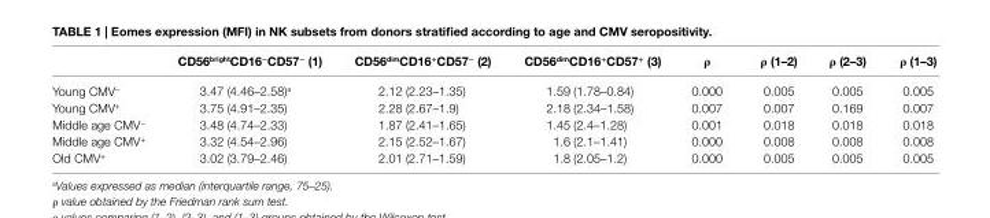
<table><thead><tr><td></td><td>cD56<sup>bright</sup>cD16<sup>−</sup>cD57<sup>−</sup> (1)</td><td>cD56<sup>dim</sup>cD16<sup>+</sup>cD57<sup>−</sup> (2)</td><td>cD56<sup>dim</sup>cD16<sup>+</sup>cD57<sup>+</sup> (3)</td><td>ρ</td><td>ρ (1–2)</td><td>ρ (2–3)</td><td>ρ (1–3)</td></tr></thead><tbody><tr><td>Young CMV<sup>−</sup></td><td>3.47 (4.46–2.58)<sup>a</sup></td><td>2.12 (2.23–1.35)</td><td>1.59 (1.78–0.84)</td><td>0.000</td><td>0.005</td><td>0.005</td><td>0.005</td></tr><tr><td>Young CMV<sup>+</sup></td><td>3.75 (4.91–2.35)</td><td>2.28 (2.67–1.9)</td><td>2.18 (2.34–1.58)</td><td>0.007</td><td>0.007</td><td>0.169</td><td>0.007</td></tr><tr><td>Middle age CMV<sup>−</sup></td><td>3.48 (4.74–2.33)</td><td>1.87 (2.41–1.65)</td><td>1.45 (2.4–1.28)</td><td>0.001</td><td>0.018</td><td>0.018</td><td>0.018</td></tr><tr><td>Middle age CMV<sup>+</sup></td><td>3.32 (4.54–2.96)</td><td>2.15 (2.52–1.67)</td><td>1.6 (2.1–1.41)</td><td>0.000</td><td>0.008</td><td>0.008</td><td>0.008</td></tr><tr><td>Old CMV<sup>+</sup></td><td>3.02 (3.79–2.46)</td><td>2.01 (2.71–1.59)</td><td>1.8 (2.05–1.2)</td><td>0.000</td><td>0.005</td><td>0.005</td><td>0.005</td></tr></tbody></table>